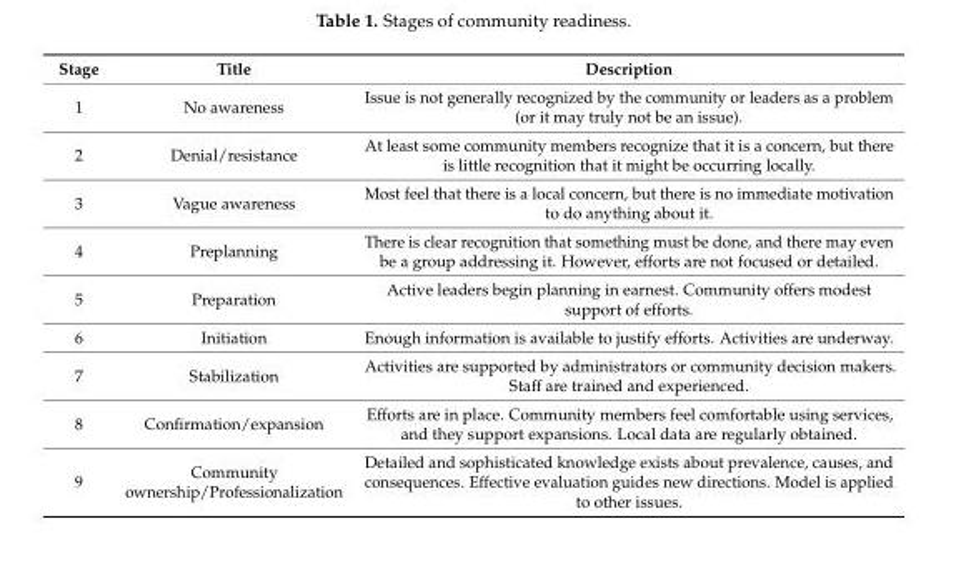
<table><thead><tr><td>Stage</td><td>Title</td><td>Description</td></tr></thead><tbody><tr><td>1</td><td>No awareness</td><td>Issue is not generally recognized by the community or leaders as a problem (or it may truly not be an issue).</td></tr><tr><td>2</td><td>Denial/resistance</td><td>At least some community members recognize that it is a concern, but there is little recognition that it might be occurring locally.</td></tr><tr><td>3</td><td>Vague awareness</td><td>Most feel that there is a local concern, but there is no immediate motivation to do anything about it.</td></tr><tr><td>4</td><td>Preplanning</td><td>There is clear recognition that something must be done, and there may even be a group addressing it. However, efforts are not focused or detailed.</td></tr><tr><td>5</td><td>Preparation</td><td>Active leaders begin planning in earnest. Community offers modest support of efforts.</td></tr><tr><td>6</td><td>Initiation</td><td>Enough information is available to justify efforts. Activities are underway.</td></tr><tr><td>7</td><td>Stabilization</td><td>Activities are supported by administrators or community decision makers. Staff are trained and experienced.</td></tr><tr><td>8</td><td>Confirmation/expansion</td><td>Efforts are in place. Community members feel comfortable using services, and they support expansions. Local data are regularly obtained.</td></tr><tr><td>9</td><td>Community ownership/Professionalization</td><td>Detailed and sophisticated knowledge exists about prevalence, causes, and consequences. Effective evaluation guides new directions. Model is applied to other issues.</td></tr></tbody></table>